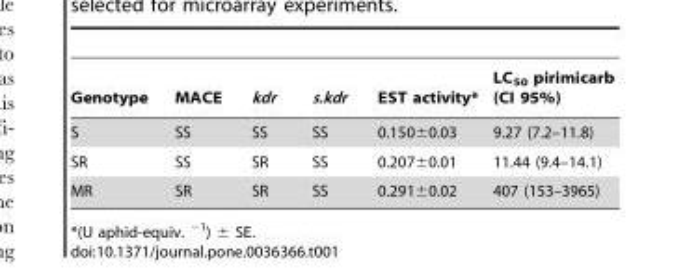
<table><thead><tr><td>Genotype</td><td>MACE</td><td>kdr</td><td>s.kdr</td><td>EST activity*</td><td>LC<sub>50</sub> pirimicarb (CI 95%)</td></tr></thead><tbody><tr><td>S</td><td>SS</td><td>SS</td><td>SS</td><td>0.150±0.03</td><td>9.27 (7.2–11.8)</td></tr><tr><td>SR</td><td>SS</td><td>SR</td><td>SS</td><td>0.207±0.01</td><td>11.44 (9.4–14.1)</td></tr><tr><td>MR</td><td>SR</td><td>SR</td><td>SS</td><td>0.291±0.02</td><td>407 (153–3965)</td></tr></tbody></table>